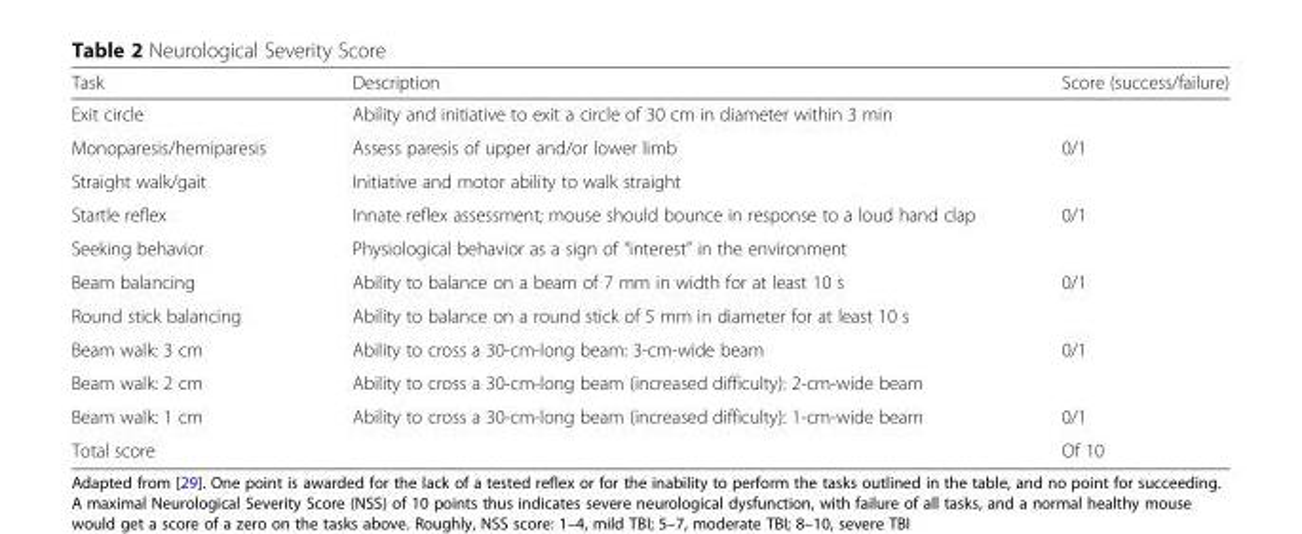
<table><thead><tr><td>Task</td><td>Description</td><td>Score (success/failure)</td></tr></thead><tbody><tr><td>Exit circle</td><td>Ability and initiative to exit a circle of 30 cm in diameter within 3 min</td><td></td></tr><tr><td>Monoparesis/hemiparesis</td><td>Assess paresis of upper and/or lower limb</td><td>0/1</td></tr><tr><td>Straight walk/gait</td><td>Initiative and motor ability to walk straight</td><td></td></tr><tr><td>Startle reflex</td><td>Innate reflex assessment; mouse should bounce in response to a loud hand clap</td><td>0/1</td></tr><tr><td>Seeking behavior</td><td>Physiological behavior as a sign of “interest” in the environment</td><td></td></tr><tr><td>Beam balancing</td><td>Ability to balance on a beam of 7 mm in width for at least 10 s</td><td>0/1</td></tr><tr><td>Round stick balancing</td><td>Ability to balance on a round stick of 5 mm in diameter for at least 10 s</td><td></td></tr><tr><td>Beam walk: 3 cm</td><td>Ability to cross a 30-cm-long beam: 3-cm-wide beam</td><td>0/1</td></tr><tr><td>Beam walk: 2 cm</td><td>Ability to cross a 30-cm-long beam (increased difficulty): 2-cm-wide beam</td><td></td></tr><tr><td>Beam walk: 1 cm</td><td>Ability to cross a 30-cm-long beam (increased difficulty): 1-cm-wide beam</td><td>0/1</td></tr><tr><td>Total score</td><td></td><td>Of 10</td></tr></tbody></table>